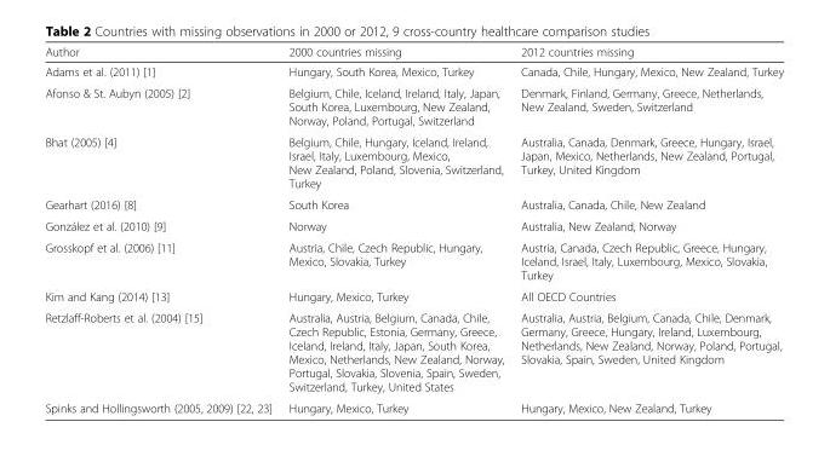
<table><thead><tr><td>Author</td><td>2000 countries missing</td><td>2012 countries missing</td></tr></thead><tbody><tr><td>Adams et al. (2011) [1]</td><td>Hungary, South Korea, Mexico, Turkey</td><td>Canada, Chile, Hungary, Mexico, New Zealand, Turkey</td></tr><tr><td>Afonso &amp; St. Aubyn (2005) [2]</td><td>Belgium, Chile, Iceland, Ireland, Italy, Japan, South Korea, Luxembourg, New Zealand, Norway, Poland, Portugal, Switzerland</td><td>Denmark, Finland, Germany, Greece, Netherlands, New Zealand, Sweden, Switzerland</td></tr><tr><td>Bhat (2005) [4]</td><td>Belgium, Chile, Hungary, Iceland, Ireland, Israel, Italy, Luxembourg, Mexico, New Zealand, Poland, Slovenia, Switzerland, Turkey</td><td>Australia, Canada, Denmark, Greece, Hungary, Israel, Japan, Mexico, Netherlands, New Zealand, Portugal, Turkey, United Kingdom</td></tr><tr><td>Gearhart (2016) [8]</td><td>South Korea</td><td>Australia, Canada, Chile, New Zealand</td></tr><tr><td>González et al. (2010) [9]</td><td>Norway</td><td>Australia, New Zealand, Norway</td></tr><tr><td>Grosskopf et al. (2006) [11]</td><td>Austria, Chile, Czech Republic, Hungary, Mexico, Slovakia, Turkey</td><td>Austria, Canada, Czech Republic, Greece, Hungary, Iceland, Israel, Italy, Luxembourg, Mexico, Slovakia, Turkey</td></tr><tr><td>Kim and Kang (2014) [13]</td><td>Hungary, Mexico, Turkey</td><td>All OECD Countries</td></tr><tr><td>Retzlaff-Roberts et al. (2004) [15]</td><td>Australia, Austria, Belgium, Canada, Chile, Czech Republic, Estonia, Germany, Greece, Iceland, Ireland, Italy, Japan, South Korea, Mexico, Netherlands, New Zealand, Norway, Portugal, Slovakia, Slovenia, Spain, Sweden, Switzerland, Turkey, United States</td><td>Australia, Austria, Belgium, Canada, Chile, Denmark, Germany, Greece, Hungary, Ireland, Luxembourg, Netherlands, New Zealand, Norway, Poland, Portugal, Slovakia, Spain, Sweden, United Kingdom</td></tr><tr><td>Spinks and Hollingsworth (2005, 2009) [22, 23]</td><td>Hungary, Mexico, Turkey</td><td>Hungary, Mexico, New Zealand, Turkey</td></tr></tbody></table>